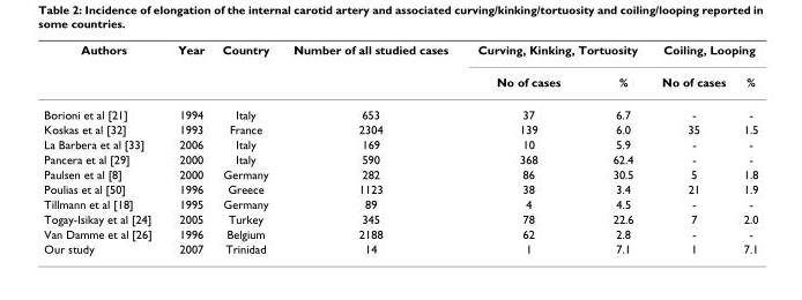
<table><thead><tr><td rowspan="2">Authors</td><td rowspan="2">Year</td><td rowspan="2">Country</td><td rowspan="2">Number of all studied cases</td><td colspan="2">Curving, Kinking, Tortuosity</td><td colspan="2">Coiling, Looping</td></tr><tr><td>No of cases</td><td>%</td><td>No of cases</td><td>%</td></tr></thead><tbody><tr><td>Borioni et al [21]</td><td>1994</td><td>Italy</td><td>653</td><td>37</td><td>6.7</td><td>-</td><td>-</td></tr><tr><td>Koskas et al [32]</td><td>1993</td><td>France</td><td>2304</td><td>139</td><td>6.0</td><td>35</td><td>1.5</td></tr><tr><td>La Barbera et al [33]</td><td>2006</td><td>Italy</td><td>169</td><td>10</td><td>5.9</td><td>-</td><td>-</td></tr><tr><td>Pancera et al [29]</td><td>2000</td><td>Italy</td><td>590</td><td>368</td><td>62.4</td><td>-</td><td>-</td></tr><tr><td>Paulsen et al [8]</td><td>2000</td><td>Germany</td><td>282</td><td>86</td><td>30.5</td><td>5</td><td>1.8</td></tr><tr><td>Poulias et al [50]</td><td>1996</td><td>Greece</td><td>1123</td><td>38</td><td>3.4</td><td>21</td><td>1.9</td></tr><tr><td>Tillmann et al [18]</td><td>1995</td><td>Germany</td><td>89</td><td>4</td><td>4.5</td><td>-</td><td>-</td></tr><tr><td>Togay-Isikay et al [24]</td><td>2005</td><td>Turkey</td><td>345</td><td>78</td><td>22.6</td><td>7</td><td>2.0</td></tr><tr><td>Van Damme et al [26]</td><td>1996</td><td>Belgium</td><td>2188</td><td>62</td><td>2.8</td><td>-</td><td>-</td></tr><tr><td>Our study</td><td>2007</td><td>Trinidad</td><td>14</td><td>1</td><td>7.1</td><td>1</td><td>7.1</td></tr></tbody></table>